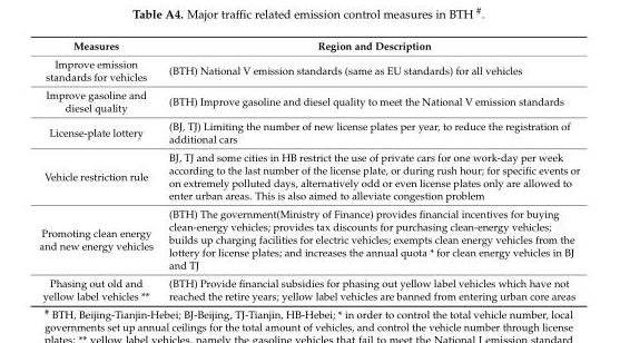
<table><thead><tr><td>Measures</td><td>Region and Description</td></tr></thead><tbody><tr><td>Improve emission standards for vehicles</td><td>(BTH) National V emission standards (same as EU standards) for all vehicles</td></tr><tr><td>Improve gasoline and diesel quality</td><td>(BTH) Improve gasoline and diesel quality to meet the National V emission standards</td></tr><tr><td>License-plate lottery</td><td>(BJ, TJ) Limiting the number of new license plates per year, to reduce the registration of additional cars</td></tr><tr><td>Vehicle restriction rule</td><td>BJ, TJ and some cities in HB restrict the use of private cars for one work-day per week according to the last number of the license plate, or during rush hour; for specific events or on extremely polluted days, alternatively odd or even license plates only are allowed to enter urban areas. This is also aimed to alleviate congestion problem</td></tr><tr><td>Promoting clean energy and new energy vehicles</td><td>(BTH) The government(Ministry of Finance) provides financial incentives for buying clean-energy vehicles; provides tax discounts for purchasing clean-energy vehicles; builds up charging facilities for electric vehicles; exempts clean energy vehicles from the lottery for license plates; and increases the annual quota * for clean energy vehicles in BJ and TJ</td></tr><tr><td>Phasing out old and yellow label vehicles **</td><td>(BTH) Provide financial subsidies for phasing out yellow label vehicles which have not reached the retire years; yellow label vehicles are banned from entering urban core areas</td></tr></tbody></table>